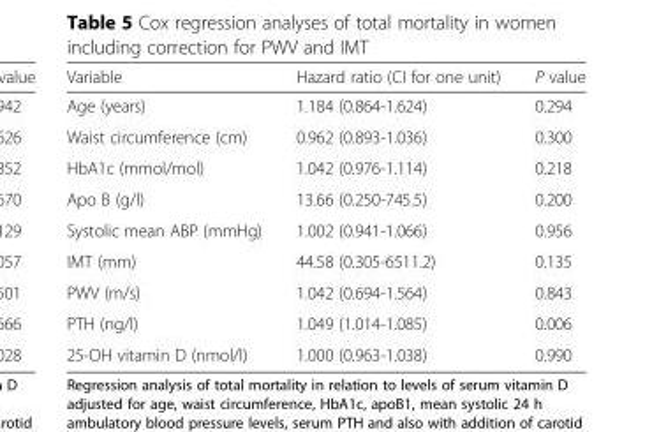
<table><thead><tr><td>Variable</td><td>Hazard ratio (CI for one unit)</td><td>P value</td></tr></thead><tbody><tr><td>Age (years)</td><td>1.184 (0.864-1.624)</td><td>0.294</td></tr><tr><td>Waist circumference (cm)</td><td>0.962 (0.893-1.036)</td><td>0.300</td></tr><tr><td>HbA1c (mmol/mol)</td><td>1.042 (0.976-1.114)</td><td>0.218</td></tr><tr><td>Apo B (g/l)</td><td>13.66 (0.250-745.5)</td><td>0.200</td></tr><tr><td>Systolic mean ABP (mmHg)</td><td>1.002 (0.941-1.066)</td><td>0.956</td></tr><tr><td>IMT (mm)</td><td>44.58 (0.305-6511.2)</td><td>0.135</td></tr><tr><td>PWV (m/s)</td><td>1.042 (0.694-1.564)</td><td>0.843</td></tr><tr><td>PTH (ng/l)</td><td>1.049 (1.014-1.085)</td><td>0.006</td></tr><tr><td>25-OH vitamin D (nmol/l)</td><td>1.000 (0.963-1.038)</td><td>0.990</td></tr></tbody></table>